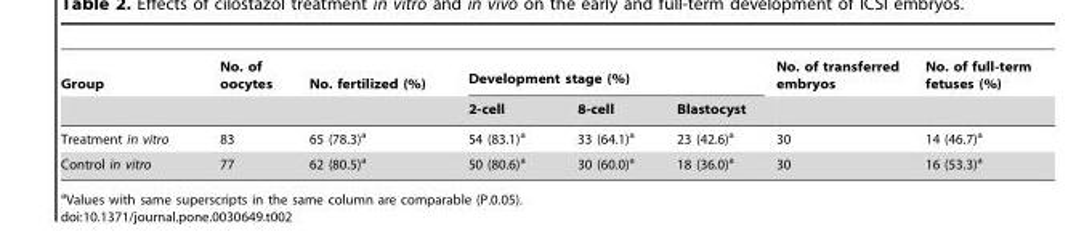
<table><thead><tr><td rowspan="2">Group</td><td rowspan="2">No. of oocytes</td><td rowspan="2">No. fertilized (%)</td><td colspan="3">Development stage (%)</td><td rowspan="2">No. of transferred embryos</td><td rowspan="2">No. of full-term fetuses (%)</td></tr><tr><td>2-cell</td><td>8-cell</td><td>Blastocyst</td></tr></thead><tbody><tr><td>Treatment in vitro</td><td>83</td><td>65 (78.3)<sup>a</sup></td><td>54 (83.1)<sup>a</sup></td><td>33 (64.1)<sup>a</sup></td><td>23 (42.6)<sup>a</sup></td><td>30</td><td>14 (46.7)<sup>a</sup></td></tr><tr><td>Control in vitro</td><td>77</td><td>62 (80.5)<sup>a</sup></td><td>50 (80.6)<sup>a</sup></td><td>30 (60.0)<sup>a</sup></td><td>18 (36.0)<sup>a</sup></td><td>30</td><td>16 (53.3)<sup>a</sup></td></tr></tbody></table>